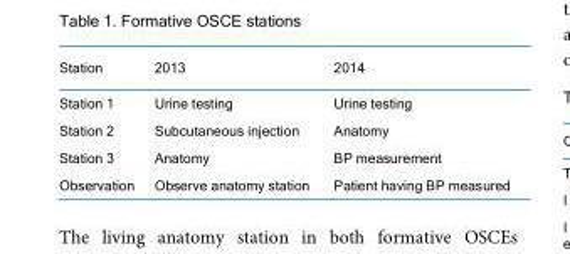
<table><thead><tr><td>Station</td><td>2013</td><td>2014</td></tr></thead><tbody><tr><td>Station 1</td><td>Urine testing</td><td>Urine testing</td></tr><tr><td>Station 2</td><td>Subcutaneous injection</td><td>Anatomy</td></tr><tr><td>Station 3</td><td>Anatomy</td><td>BP measurement</td></tr><tr><td>Observation</td><td>Observe anatomy station</td><td>Patient having BP measured</td></tr></tbody></table>